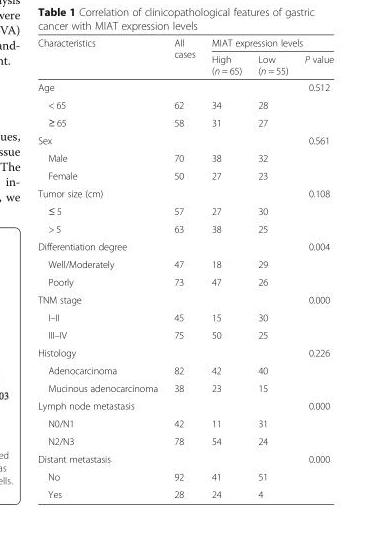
<table><thead><tr><td rowspan="2">Characteristics</td><td rowspan="2">All cases</td><td colspan="3">MIAT expression levels</td></tr><tr><td>High (n = 65)</td><td>Low (n = 55)</td><td>P value</td></tr></thead><tbody><tr><td>Age</td><td></td><td></td><td></td><td>0.512</td></tr><tr><td>&lt; 65</td><td>62</td><td>34</td><td>28</td><td></td></tr><tr><td>≥ 65</td><td>58</td><td>31</td><td>27</td><td></td></tr><tr><td>Sex</td><td></td><td></td><td></td><td>0.561</td></tr><tr><td>Male</td><td>70</td><td>38</td><td>32</td><td></td></tr><tr><td>Female</td><td>50</td><td>27</td><td>23</td><td></td></tr><tr><td>Tumor size (cm)</td><td></td><td></td><td></td><td>0.108</td></tr><tr><td>≤ 5</td><td>57</td><td>27</td><td>30</td><td></td></tr><tr><td>&gt; 5</td><td>63</td><td>38</td><td>25</td><td></td></tr><tr><td>Differentiation degree</td><td></td><td></td><td></td><td>0.004</td></tr><tr><td>Well/Moderately</td><td>47</td><td>18</td><td>29</td><td></td></tr><tr><td>Poorly</td><td>73</td><td>47</td><td>26</td><td></td></tr><tr><td>TNM stage</td><td></td><td></td><td></td><td>0.000</td></tr><tr><td>I–II</td><td>45</td><td>15</td><td>30</td><td></td></tr><tr><td>III–IV</td><td>75</td><td>50</td><td>25</td><td></td></tr><tr><td>Histology</td><td></td><td></td><td></td><td>0.226</td></tr><tr><td>Adenocarcinoma</td><td>82</td><td>42</td><td>40</td><td></td></tr><tr><td>Mucinous adenocarcinoma</td><td>38</td><td>23</td><td>15</td><td></td></tr><tr><td>Lymph node metastasis</td><td></td><td></td><td></td><td>0.000</td></tr><tr><td>N0/N1</td><td>42</td><td>11</td><td>31</td><td></td></tr><tr><td>N2/N3</td><td>78</td><td>54</td><td>24</td><td></td></tr><tr><td>Distant metastasis</td><td></td><td></td><td></td><td>0.000</td></tr><tr><td>No</td><td>92</td><td>41</td><td>51</td><td></td></tr><tr><td>Yes</td><td>28</td><td>24</td><td>4</td><td></td></tr></tbody></table>